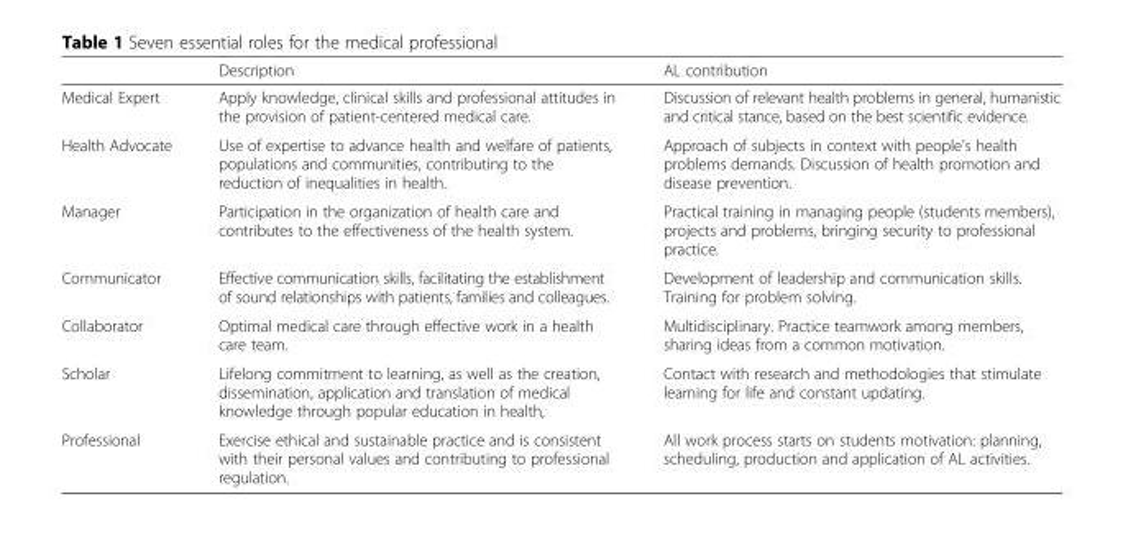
<table><thead><tr><td></td><td>Description</td><td>AL contribution</td></tr></thead><tbody><tr><td>Medical Expert</td><td>Apply knowledge, clinical skills and professional attitudes in the provision of patient-centered medical care.</td><td>Discussion of relevant health problems in general, humanistic and critical stance, based on the best scientific evidence.</td></tr><tr><td>Health Advocate</td><td>Use of expertise to advance health and welfare of patients, populations and communities, contributing to the reduction of inequalities in health.</td><td>Approach of subjects in context with people&#x27;s health problems demands. Discussion of health promotion and disease prevention.</td></tr><tr><td>Manager</td><td>Participation in the organization of health care and contributes to the effectiveness of the health system.</td><td>Practical training in managing people (students members), projects and problems, bringing security to professional practice.</td></tr><tr><td>Communicator</td><td>Effective communication skills, facilitating the establishment of sound relationships with patients, families and colleagues.</td><td>Development of leadership and communication skills. Training for problem solving.</td></tr><tr><td>Collaborator</td><td>Optimal medical care through effective work in a health care team.</td><td>Multidisciplinary. Practice teamwork among members, sharing ideas from a common motivation.</td></tr><tr><td>Scholar</td><td>Lifelong commitment to learning, as well as the creation, dissemination, application and translation of medical knowledge through popular education in health,</td><td>Contact with research and methodologies that stimulate learning for life and constant updating.</td></tr><tr><td>Professional</td><td>Exercise ethical and sustainable practice and is consistent with their personal values and contributing to professional regulation.</td><td>All work process starts on students motivation: planning, scheduling, production and application of AL activities.</td></tr></tbody></table>